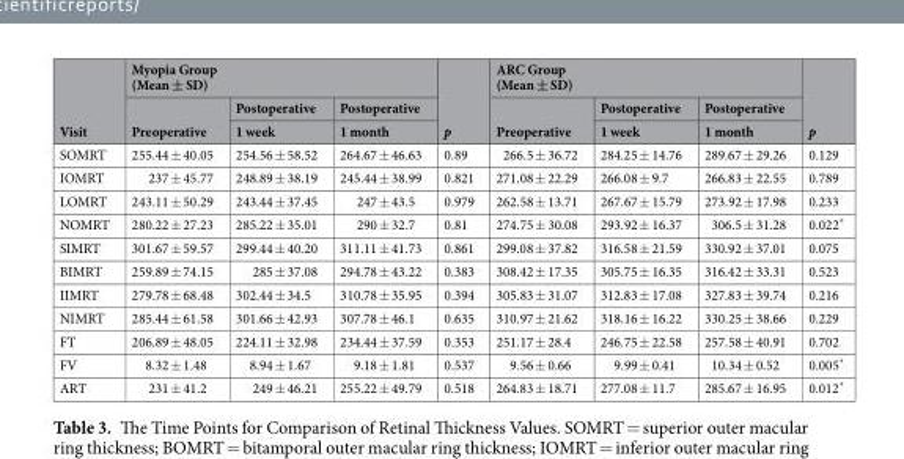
<table><thead><tr><td rowspan="3">Visit</td><td colspan="3">Myopia Group (Mean ± SD)</td><td rowspan="3">p</td><td colspan="3">ARC Group (Mean ± SD)</td><td rowspan="3">p</td></tr><tr><td rowspan="2">Preoperative</td><td rowspan="2">Postoperative 1 week</td><td rowspan="2">Postoperative 1 month</td><td rowspan="2">Preoperative</td><td rowspan="2">Postoperative 1 week</td><td rowspan="2">Postoperative 1 month</td></tr><tr></tr></thead><tbody><tr><td>SOMRT</td><td>255.44 ± 40.05</td><td>254.56 ± 58.52</td><td>264.67 ± 46.63</td><td>0.89</td><td>266.5 ± 36.72</td><td>284.25 ± 14.76</td><td>289.67 ± 29.26</td><td>0.129</td></tr><tr><td>IOMRT</td><td>237 ± 45.77</td><td>248.89 ± 38.19</td><td>245.44 ± 38.99</td><td>0.821</td><td>271.08 ± 22.29</td><td>266.08 ± 9.7</td><td>266.83 ± 22.55</td><td>0.789</td></tr><tr><td>LOMRT</td><td>243.11 ± 50.29</td><td>243.44 ± 37.45</td><td>247 ± 43.5</td><td>0.979</td><td>262.58 ± 13.71</td><td>267.67 ± 15.79</td><td>273.92 ± 17.98</td><td>0.233</td></tr><tr><td>NOMRT</td><td>280.22 ± 27.23</td><td>285.22 ± 35.01</td><td>290 ± 32.7</td><td>0.81</td><td>274.75 ± 30.08</td><td>293.92 ± 16.37</td><td>306.5 ± 31.28</td><td>0.022*</td></tr><tr><td>SIMRT</td><td>301.67 ± 59.57</td><td>299.44 ± 40.20</td><td>311.11 ± 41.73</td><td>0.861</td><td>299.08 ± 37.82</td><td>316.58 ± 21.59</td><td>330.92 ± 37.01</td><td>0.075</td></tr><tr><td>BIMRT</td><td>259.89 ± 74.15</td><td>285 ± 37.08</td><td>294.78 ± 43.22</td><td>0.383</td><td>308.42 ± 17.35</td><td>305.75 ± 16.35</td><td>316.42 ± 33.31</td><td>0.523</td></tr><tr><td>IIMRT</td><td>279.78 ± 68.48</td><td>302.44 ± 34.5</td><td>310.78 ± 35.95</td><td>0.394</td><td>305.83 ± 31.07</td><td>312.83 ± 17.08</td><td>327.83 ± 39.74</td><td>0.216</td></tr><tr><td>NIMRT</td><td>285.44 ± 61.58</td><td>301.66 ± 42.93</td><td>307.78 ± 46.1</td><td>0.635</td><td>310.97 ± 21.62</td><td>318.16 ± 16.22</td><td>330.25 ± 38.66</td><td>0.229</td></tr><tr><td>FT</td><td>206.89 ± 48.05</td><td>224.11 ± 32.98</td><td>234.44 ± 37.59</td><td>0.353</td><td>251.17 ± 28.4</td><td>246.75 ± 22.58</td><td>257.58 ± 40.91</td><td>0.702</td></tr><tr><td>FV</td><td>8.32 ± 1.48</td><td>8.94 ± 1.67</td><td>9.18 ± 1.81</td><td>0.537</td><td>9.56 ± 0.66</td><td>9.99 ± 0.41</td><td>10.34 ± 0.52</td><td>0.005*</td></tr><tr><td>ART</td><td>231 ± 41.2</td><td>249 ± 46.21</td><td>255.22 ± 49.79</td><td>0.518</td><td>264.83 ± 18.71</td><td>277.08 ± 11.7</td><td>285.67 ± 16.95</td><td>0.012*</td></tr></tbody></table>